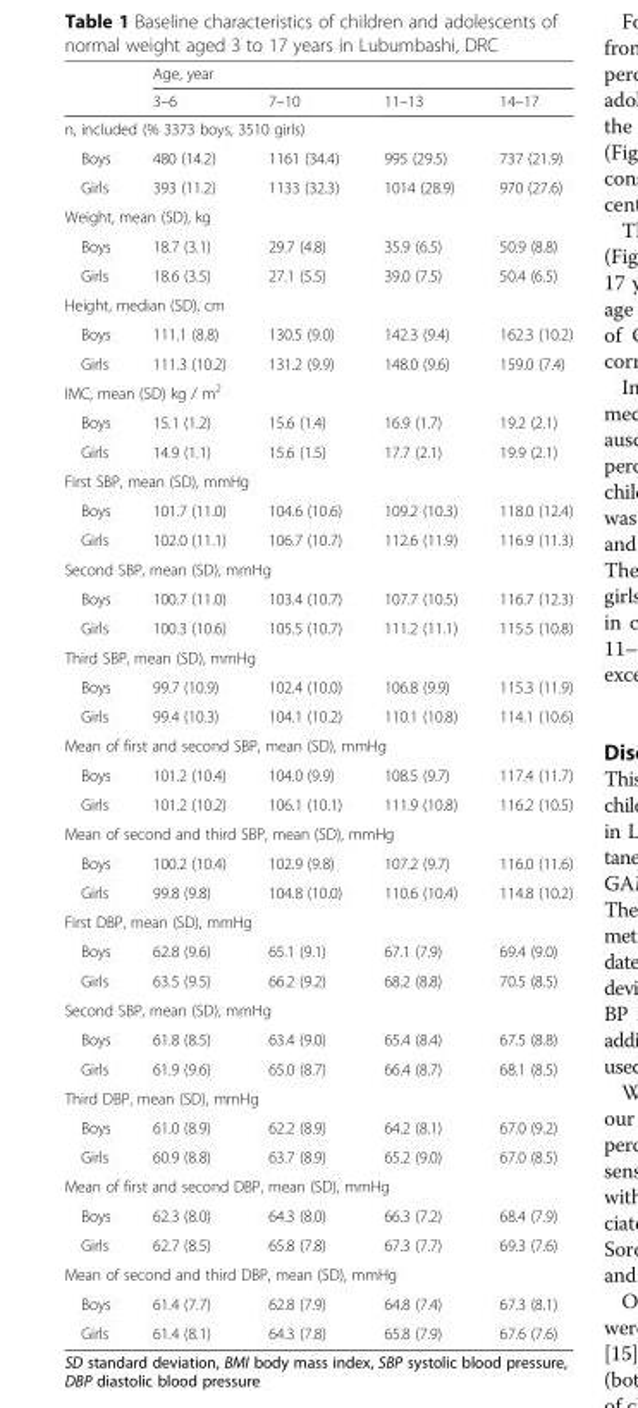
<table><thead><tr><td rowspan="2"></td><td colspan="4">Age, year</td></tr><tr><td>3–6</td><td>7–10</td><td>11–13</td><td>14–17</td></tr></thead><tbody><tr><td colspan="5">n, included (% 3373 boys, 3510 girls)</td></tr><tr><td>Boys</td><td>480 (14.2)</td><td>1161 (34.4)</td><td>995 (29.5)</td><td>737 (21.9)</td></tr><tr><td>Girls</td><td>393 (11.2)</td><td>1133 (32.3)</td><td>1014 (28.9)</td><td>970 (27.6)</td></tr><tr><td colspan="5">Weight, mean (SD), kg</td></tr><tr><td>Boys</td><td>18.7 (3.1)</td><td>29.7 (4.8)</td><td>35.9 (6.5)</td><td>50.9 (8.8)</td></tr><tr><td>Girls</td><td>18.6 (3.5)</td><td>27.1 (5.5)</td><td>39.0 (7.5)</td><td>50.4 (6.5)</td></tr><tr><td colspan="5">Height, median (SD), cm</td></tr><tr><td>Boys</td><td>111.1 (8.8)</td><td>130.5 (9.0)</td><td>142.3 (9.4)</td><td>162.3 (10.2)</td></tr><tr><td>Girls</td><td>111.3 (10.2)</td><td>131.2 (9.9)</td><td>148.0 (9.6)</td><td>159.0 (7.4)</td></tr><tr><td colspan="5">IMC, mean (SD) kg / m<sup>2</sup></td></tr><tr><td>Boys</td><td>15.1 (1.2)</td><td>15.6 (1.4)</td><td>16.9 (1.7)</td><td>19.2 (2.1)</td></tr><tr><td>Girls</td><td>14.9 (1.1)</td><td>15.6 (1.5)</td><td>17.7 (2.1)</td><td>19.9 (2.1)</td></tr><tr><td colspan="5">First SBP, mean (SD), mmHg</td></tr><tr><td>Boys</td><td>101.7 (11.0)</td><td>104.6 (10.6)</td><td>109.2 (10.3)</td><td>118.0 (12.4)</td></tr><tr><td>Girls</td><td>102.0 (11.1)</td><td>106.7 (10.7)</td><td>112.6 (11.9)</td><td>116.9 (11.3)</td></tr><tr><td colspan="5">Second SBP, mean (SD), mmHg</td></tr><tr><td>Boys</td><td>100.7 (11.0)</td><td>103.4 (10.7)</td><td>107.7 (10.5)</td><td>116.7 (12.3)</td></tr><tr><td>Girls</td><td>100.3 (10.6)</td><td>105.5 (10.7)</td><td>111.2 (11.1)</td><td>115.5 (10.8)</td></tr><tr><td colspan="5">Third SBP, mean (SD), mmHg</td></tr><tr><td>Boys</td><td>99.7 (10.9)</td><td>102.4 (10.0)</td><td>106.8 (9.9)</td><td>115.3 (11.9)</td></tr><tr><td>Girls</td><td>99.4 (10.3)</td><td>104.1 (10.2)</td><td>110.1 (10.8)</td><td>114.1 (10.6)</td></tr><tr><td colspan="5">Mean of first and second SBP, mean (SD), mmHg</td></tr><tr><td>Boys</td><td>101.2 (10.4)</td><td>104.0 (9.9)</td><td>108.5 (9.7)</td><td>117.4 (11.7)</td></tr><tr><td>Girls</td><td>101.2 (10.2)</td><td>106.1 (10.1)</td><td>111.9 (10.8)</td><td>116.2 (10.5)</td></tr><tr><td colspan="5">Mean of second and third SBP, mean (SD), mmHg</td></tr><tr><td>Boys</td><td>100.2 (10.4)</td><td>102.9 (9.8)</td><td>107.2 (9.7)</td><td>116.0 (11.6)</td></tr><tr><td>Girls</td><td>99.8 (9.8)</td><td>104.8 (10.0)</td><td>110.6 (10.4)</td><td>114.8 (10.2)</td></tr><tr><td colspan="5">First DBP, mean (SD), mmHg</td></tr><tr><td>Boys</td><td>62.8 (9.6)</td><td>65.1 (9.1)</td><td>67.1 (7.9)</td><td>69.4 (9.0)</td></tr><tr><td>Girls</td><td>63.5 (9.5)</td><td>66.2 (9.2)</td><td>68.2 (8.8)</td><td>70.5 (8.5)</td></tr><tr><td colspan="5">Second SBP, mean (SD), mmHg</td></tr><tr><td>Boys</td><td>61.8 (8.5)</td><td>63.4 (9.0)</td><td>65.4 (8.4)</td><td>67.5 (8.8)</td></tr><tr><td>Girls</td><td>61.9 (9.6)</td><td>65.0 (8.7)</td><td>66.4 (8.7)</td><td>68.1 (8.5)</td></tr><tr><td colspan="5">Third DBP, mean (SD), mmHg</td></tr><tr><td>Boys</td><td>61.0 (8.9)</td><td>62.2 (8.9)</td><td>64.2 (8.1)</td><td>67.0 (9.2)</td></tr><tr><td>Girls</td><td>60.9 (8.8)</td><td>63.7 (8.9)</td><td>65.2 (9.0)</td><td>67.0 (8.5)</td></tr><tr><td colspan="5">Mean of first and second DBP, mean (SD), mmHg</td></tr><tr><td>Boys</td><td>62.3 (8.0)</td><td>64.3 (8.0)</td><td>66.3 (7.2)</td><td>68.4 (7.9)</td></tr><tr><td>Girls</td><td>62.7 (8.5)</td><td>65.8 (7.8)</td><td>67.3 (7.7)</td><td>69.3 (7.6)</td></tr><tr><td colspan="5">Mean of second and third DBP, mean (SD), mmHg</td></tr><tr><td>Boys</td><td>61.4 (7.7)</td><td>62.8 (7.9)</td><td>64.8 (7.4)</td><td>67.3 (8.1)</td></tr><tr><td>Girls</td><td>61.4 (8.1)</td><td>64.3 (7.8)</td><td>65.8 (7.9)</td><td>67.6 (7.6)</td></tr></tbody></table>